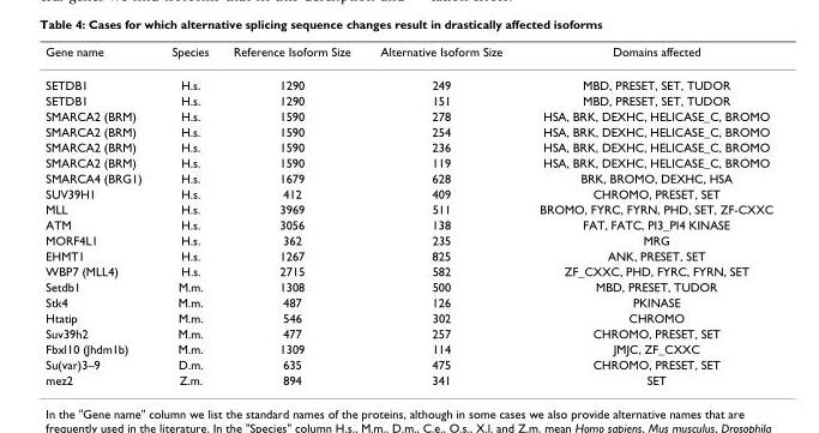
<table><thead><tr><td>Gene name</td><td>Species</td><td>Reference Isoform Size</td><td>Alternative Isoform Size</td><td>Domains affected</td></tr></thead><tbody><tr><td>SETDB1</td><td>H.s.</td><td>1290</td><td>249</td><td>MBD, PRESET, SET, TUDOR</td></tr><tr><td>SETDB1</td><td>H.s.</td><td>1290</td><td>151</td><td>MBD, PRESET, SET, TUDOR</td></tr><tr><td>SMARCA2 (BRM)</td><td>H.s.</td><td>1590</td><td>278</td><td>HSA, BRK, DEXHC, HELICASE_C, BROMO</td></tr><tr><td>SMARCA2 (BRM)</td><td>H.s.</td><td>1590</td><td>254</td><td>HSA, BRK, DEXHC, HELICASE_C, BROMO</td></tr><tr><td>SMARCA2 (BRM)</td><td>H.s.</td><td>1590</td><td>236</td><td>HSA, BRK, DEXHC, HELICASE_C, BROMO</td></tr><tr><td>SMARCA2 (BRM)</td><td>H.s.</td><td>1590</td><td>119</td><td>HSA, BRK, DEXHC, HELICASE_C, BROMO</td></tr><tr><td>SMARCA4 (BRG1)</td><td>H.s.</td><td>1679</td><td>628</td><td>BRK, BROMO, DEXHC, HSA</td></tr><tr><td>SUV39H1</td><td>H.s.</td><td>412</td><td>409</td><td>CHROMO, PRESET, SET</td></tr><tr><td>MLL</td><td>H.s.</td><td>3969</td><td>511</td><td>BROMO, FYRC, FYRN, PHD, SET, ZF-CXXC</td></tr><tr><td>ATM</td><td>H.s.</td><td>3056</td><td>138</td><td>FAT, FATC, PI3_PI4 KINASE</td></tr><tr><td>MORF4L1</td><td>H.s.</td><td>362</td><td>235</td><td>MRG</td></tr><tr><td>EHMT1</td><td>H.s.</td><td>1267</td><td>825</td><td>ANK, PRESET, SET</td></tr><tr><td>WBP7 (MLL4)</td><td>H.s.</td><td>2715</td><td>582</td><td>ZF_CXXC, PHD, FYRC, FYRN, SET</td></tr><tr><td>Setdb1</td><td>M.m.</td><td>1308</td><td>500</td><td>MBD, PRESET, TUDOR</td></tr><tr><td>Stk4</td><td>M.m.</td><td>487</td><td>126</td><td>PKINASE</td></tr><tr><td>Htatip</td><td>M.m.</td><td>546</td><td>302</td><td>CHROMO</td></tr><tr><td>Suv39h2</td><td>M.m.</td><td>477</td><td>257</td><td>CHROMO, PRESET, SET</td></tr><tr><td>Fbxl10 (Jhdm1b)</td><td>M.m.</td><td>1309</td><td>114</td><td>JMJC, ZF_CXXC</td></tr><tr><td>Su(var)3–9</td><td>D.m.</td><td>635</td><td>475</td><td>CHROMO, PRESET, SET</td></tr><tr><td>mez2</td><td>Z.m.</td><td>894</td><td>341</td><td>SET</td></tr></tbody></table>